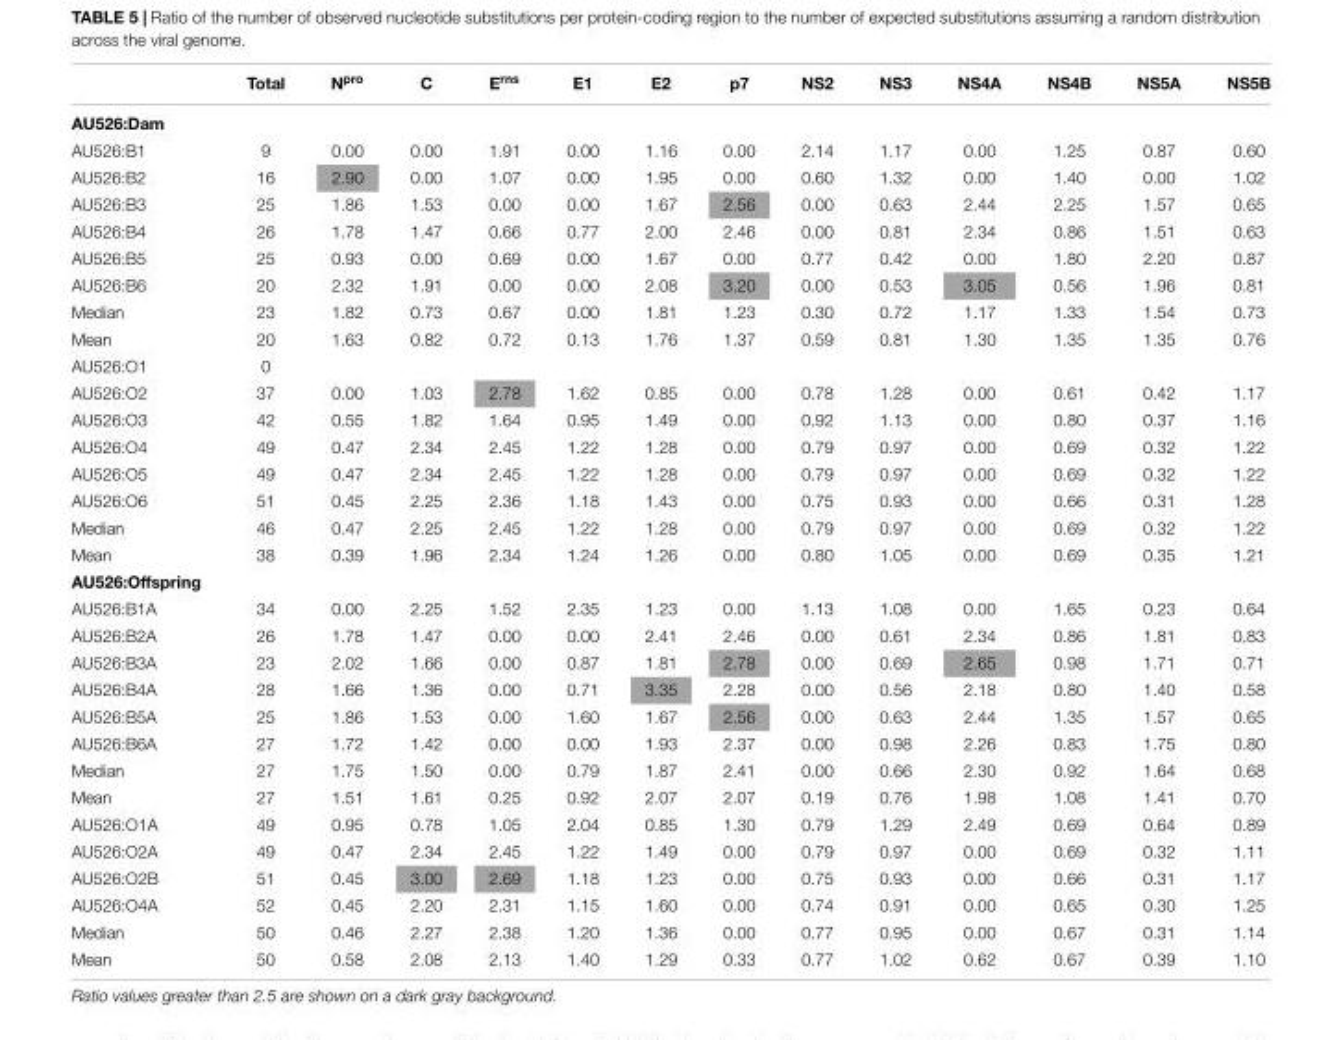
<table><thead><tr><td></td><td>Total</td><td>N<sup>pro</sup></td><td>C</td><td>E<sup>rns</sup></td><td>E1</td><td>E2</td><td>p7</td><td>NS2</td><td>NS3</td><td>NS4A</td><td>NS4B</td><td>NS5A</td><td>NS5B</td></tr></thead><tbody><tr><td colspan="14">AU526:Dam</td></tr><tr><td>AU526:B1</td><td>9</td><td>0.00</td><td>0.00</td><td>1.91</td><td>0.00</td><td>1.16</td><td>0.00</td><td>2.14</td><td>1.17</td><td>0.00</td><td>1.25</td><td>0.87</td><td>0.60</td></tr><tr><td>AU526:B2</td><td>16</td><td>2.90</td><td>0.00</td><td>1.07</td><td>0.00</td><td>1.95</td><td>0.00</td><td>0.60</td><td>1.32</td><td>0.00</td><td>1.40</td><td>0.00</td><td>1.02</td></tr><tr><td>AU526:B3</td><td>25</td><td>1.86</td><td>1.53</td><td>0.00</td><td>0.00</td><td>1.67</td><td>2.56</td><td>0.00</td><td>0.63</td><td>2.44</td><td>2.25</td><td>1.57</td><td>0.65</td></tr><tr><td>AU526:B4</td><td>26</td><td>1.78</td><td>1.47</td><td>0.66</td><td>0.77</td><td>2.00</td><td>2.46</td><td>0.00</td><td>0.81</td><td>2.34</td><td>0.86</td><td>1.51</td><td>0.63</td></tr><tr><td>AU526:B5</td><td>25</td><td>0.93</td><td>0.00</td><td>0.69</td><td>0.00</td><td>1.67</td><td>0.00</td><td>0.77</td><td>0.42</td><td>0.00</td><td>1.80</td><td>2.20</td><td>0.87</td></tr><tr><td>AU526:B6</td><td>20</td><td>2.32</td><td>1.91</td><td>0.00</td><td>0.00</td><td>2.08</td><td>3.20</td><td>0.00</td><td>0.53</td><td>3.05</td><td>0.56</td><td>1.96</td><td>0.81</td></tr><tr><td>Median</td><td>23</td><td>1.82</td><td>0.73</td><td>0.67</td><td>0.00</td><td>1.81</td><td>1.23</td><td>0.30</td><td>0.72</td><td>1.17</td><td>1.33</td><td>1.54</td><td>0.73</td></tr><tr><td>Mean</td><td>20</td><td>1.63</td><td>0.82</td><td>0.72</td><td>0.13</td><td>1.76</td><td>1.37</td><td>0.59</td><td>0.81</td><td>1.30</td><td>1.35</td><td>1.35</td><td>0.76</td></tr><tr><td>AU526:O1</td><td>0</td><td></td><td></td><td></td><td></td><td></td><td></td><td></td><td></td><td></td><td></td><td></td><td></td></tr><tr><td>AU526:O2</td><td>37</td><td>0.00</td><td>1.03</td><td>2.78</td><td>1.62</td><td>0.85</td><td>0.00</td><td>0.78</td><td>1.28</td><td>0.00</td><td>0.61</td><td>0.42</td><td>1.17</td></tr><tr><td>AU526:O3</td><td>42</td><td>0.55</td><td>1.82</td><td>1.64</td><td>0.95</td><td>1.49</td><td>0.00</td><td>0.92</td><td>1.13</td><td>0.00</td><td>0.80</td><td>0.37</td><td>1.16</td></tr><tr><td>AU526:O4</td><td>49</td><td>0.47</td><td>2.34</td><td>2.45</td><td>1.22</td><td>1.28</td><td>0.00</td><td>0.79</td><td>0.97</td><td>0.00</td><td>0.69</td><td>0.32</td><td>1.22</td></tr><tr><td>AU526:O5</td><td>49</td><td>0.47</td><td>2.34</td><td>2.45</td><td>1.22</td><td>1.28</td><td>0.00</td><td>0.79</td><td>0.97</td><td>0.00</td><td>0.69</td><td>0.32</td><td>1.22</td></tr><tr><td>AU526:O6</td><td>51</td><td>0.45</td><td>2.25</td><td>2.36</td><td>1.18</td><td>1.43</td><td>0.00</td><td>0.75</td><td>0.93</td><td>0.00</td><td>0.66</td><td>0.31</td><td>1.28</td></tr><tr><td>Median</td><td>46</td><td>0.47</td><td>2.25</td><td>2.45</td><td>1.22</td><td>1.28</td><td>0.00</td><td>0.79</td><td>0.97</td><td>0.00</td><td>0.69</td><td>0.32</td><td>1.22</td></tr><tr><td>Mean</td><td>38</td><td>0.39</td><td>1.96</td><td>2.34</td><td>1.24</td><td>1.26</td><td>0.00</td><td>0.80</td><td>1.05</td><td>0.00</td><td>0.69</td><td>0.35</td><td>1.21</td></tr><tr><td colspan="14">AU526:Offspring</td></tr><tr><td>AU526:B1A</td><td>34</td><td>0.00</td><td>2.25</td><td>1.52</td><td>2.35</td><td>1.23</td><td>0.00</td><td>1.13</td><td>1.08</td><td>0.00</td><td>1.65</td><td>0.23</td><td>0.64</td></tr><tr><td>AU526:B2A</td><td>26</td><td>1.78</td><td>1.47</td><td>0.00</td><td>0.00</td><td>2.41</td><td>2.46</td><td>0.00</td><td>0.61</td><td>2.34</td><td>0.86</td><td>1.81</td><td>0.83</td></tr><tr><td>AU526:B3A</td><td>23</td><td>2.02</td><td>1.66</td><td>0.00</td><td>0.87</td><td>1.81</td><td>2.78</td><td>0.00</td><td>0.69</td><td>2.65</td><td>0.98</td><td>1.71</td><td>0.71</td></tr><tr><td>AU526:B4A</td><td>28</td><td>1.66</td><td>1.36</td><td>0.00</td><td>0.71</td><td>3.35</td><td>2.28</td><td>0.00</td><td>0.56</td><td>2.18</td><td>0.80</td><td>1.40</td><td>0.58</td></tr><tr><td>AU526:B5A</td><td>25</td><td>1.86</td><td>1.53</td><td>0.00</td><td>1.60</td><td>1.67</td><td>2.56</td><td>0.00</td><td>0.63</td><td>2.44</td><td>1.35</td><td>1.57</td><td>0.65</td></tr><tr><td>AU526:B6A</td><td>27</td><td>1.72</td><td>1.42</td><td>0.00</td><td>0.00</td><td>1.93</td><td>2.37</td><td>0.00</td><td>0.98</td><td>2.26</td><td>0.83</td><td>1.75</td><td>0.80</td></tr><tr><td>Median</td><td>27</td><td>1.75</td><td>1.50</td><td>0.00</td><td>0.79</td><td>1.87</td><td>2.41</td><td>0.00</td><td>0.66</td><td>2.30</td><td>0.92</td><td>1.64</td><td>0.68</td></tr><tr><td>Mean</td><td>27</td><td>1.51</td><td>1.61</td><td>0.25</td><td>0.92</td><td>2.07</td><td>2.07</td><td>0.19</td><td>0.76</td><td>1.98</td><td>1.08</td><td>1.41</td><td>0.70</td></tr><tr><td>AU526:O1A</td><td>49</td><td>0.95</td><td>0.78</td><td>1.05</td><td>2.04</td><td>0.85</td><td>1.30</td><td>0.79</td><td>1.29</td><td>2.49</td><td>0.69</td><td>0.64</td><td>0.89</td></tr><tr><td>AU526:O2A</td><td>49</td><td>0.47</td><td>2.34</td><td>2.45</td><td>1.22</td><td>1.49</td><td>0.00</td><td>0.79</td><td>0.97</td><td>0.00</td><td>0.69</td><td>0.32</td><td>1.11</td></tr><tr><td>AU526:O2B</td><td>51</td><td>0.45</td><td>3.00</td><td>2.69</td><td>1.18</td><td>1.23</td><td>0.00</td><td>0.75</td><td>0.93</td><td>0.00</td><td>0.66</td><td>0.31</td><td>1.17</td></tr><tr><td>AU526:O4A</td><td>52</td><td>0.45</td><td>2.20</td><td>2.31</td><td>1.15</td><td>1.60</td><td>0.00</td><td>0.74</td><td>0.91</td><td>0.00</td><td>0.65</td><td>0.30</td><td>1.25</td></tr><tr><td>Median</td><td>50</td><td>0.46</td><td>2.27</td><td>2.38</td><td>1.20</td><td>1.36</td><td>0.00</td><td>0.77</td><td>0.95</td><td>0.00</td><td>0.67</td><td>0.31</td><td>1.14</td></tr><tr><td>Mean</td><td>50</td><td>0.58</td><td>2.08</td><td>2.13</td><td>1.40</td><td>1.29</td><td>0.33</td><td>0.77</td><td>1.02</td><td>0.62</td><td>0.67</td><td>0.39</td><td>1.10</td></tr></tbody></table>